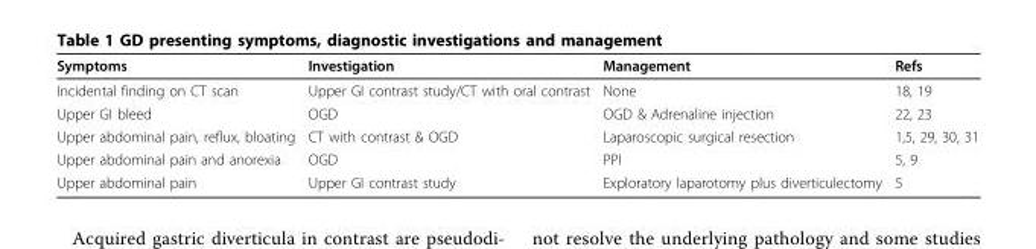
<table><thead><tr><td>Symptoms</td><td>Investigation</td><td>Management</td><td>Refs</td></tr></thead><tbody><tr><td>Incidental finding on CT scan</td><td>Upper GI contrast study/CT with oral contrast</td><td>None</td><td>18, 19</td></tr><tr><td>Upper GI bleed</td><td>OGD</td><td>OGD &amp; Adrenaline injection</td><td>22, 23</td></tr><tr><td>Upper abdominal pain, reflux, bloating</td><td>CT with contrast &amp; OGD</td><td>Laparoscopic surgical resection</td><td>1,5, 29, 30, 31</td></tr><tr><td>Upper abdominal pain and anorexia</td><td>OGD</td><td>PPI</td><td>5, 9</td></tr><tr><td>Upper abdominal pain</td><td>Upper GI contrast study</td><td>Exploratory laparotomy plus diverticulectomy</td><td>5</td></tr></tbody></table>